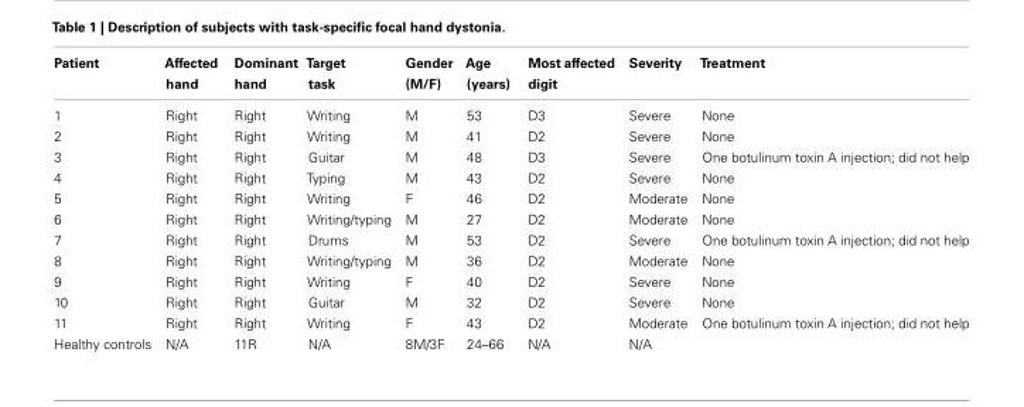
<table><thead><tr><td>Patient</td><td>Affected hand</td><td>Dominant hand</td><td>Target task</td><td>Gender (M/F)</td><td>Age (years)</td><td>Most affected digit</td><td>Severity</td><td>Treatment</td></tr></thead><tbody><tr><td>1</td><td>Right</td><td>Right</td><td>Writing</td><td>M</td><td>53</td><td>D3</td><td>Severe</td><td>None</td></tr><tr><td>2</td><td>Right</td><td>Right</td><td>Writing</td><td>M</td><td>41</td><td>D2</td><td>Severe</td><td>None</td></tr><tr><td>3</td><td>Right</td><td>Right</td><td>Guitar</td><td>M</td><td>48</td><td>D3</td><td>Severe</td><td>One botulinum toxin A injection; did not help</td></tr><tr><td>4</td><td>Right</td><td>Right</td><td>Typing</td><td>M</td><td>43</td><td>D2</td><td>Severe</td><td>None</td></tr><tr><td>5</td><td>Right</td><td>Right</td><td>Writing</td><td>F</td><td>46</td><td>D2</td><td>Moderate</td><td>None</td></tr><tr><td>6</td><td>Right</td><td>Right</td><td>Writing/typing</td><td>M</td><td>27</td><td>D2</td><td>Moderate</td><td>None</td></tr><tr><td>7</td><td>Right</td><td>Right</td><td>Drums</td><td>M</td><td>53</td><td>D2</td><td>Severe</td><td>One botulinum toxin A injection; did not help</td></tr><tr><td>8</td><td>Right</td><td>Right</td><td>Writing/typing</td><td>M</td><td>36</td><td>D2</td><td>Moderate</td><td>None</td></tr><tr><td>9</td><td>Right</td><td>Right</td><td>Writing</td><td>F</td><td>40</td><td>D2</td><td>Severe</td><td>None</td></tr><tr><td>10</td><td>Right</td><td>Right</td><td>Guitar</td><td>M</td><td>32</td><td>D2</td><td>Severe</td><td>None</td></tr><tr><td>11</td><td>Right</td><td>Right</td><td>Writing</td><td>F</td><td>43</td><td>D2</td><td>Moderate</td><td>One botulinum toxin A injection; did not help</td></tr><tr><td>Healthy controls</td><td>N/A</td><td>11R</td><td>N/A</td><td>8M/3F</td><td>24–66</td><td>N/A</td><td>N/A</td><td></td></tr></tbody></table>